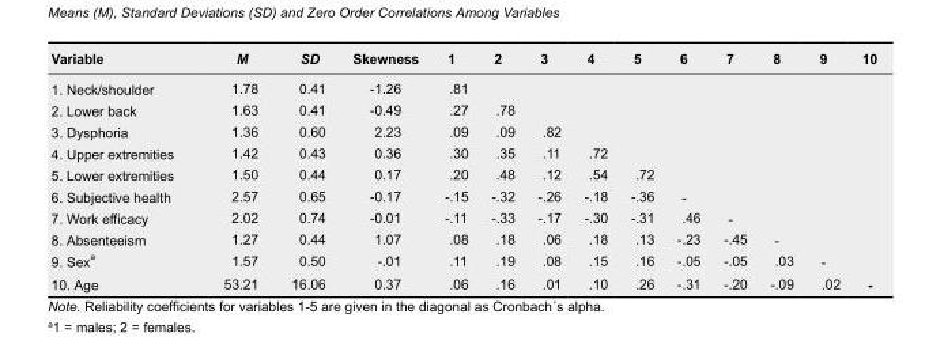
<table><thead><tr><td>Variable</td><td>M</td><td>SD</td><td>Skewness</td><td>1</td><td>2</td><td>3</td><td>4</td><td>5</td><td>6</td><td>7</td><td>8</td><td>9</td><td>10</td></tr></thead><tbody><tr><td>1. Neck/shoulder</td><td>1.78</td><td>0.41</td><td>-1.26</td><td>.81</td><td></td><td></td><td></td><td></td><td></td><td></td><td></td><td></td><td></td></tr><tr><td>2. Lower back</td><td>1.63</td><td>0.41</td><td>-0.49</td><td>.27</td><td>.78</td><td></td><td></td><td></td><td></td><td></td><td></td><td></td><td></td></tr><tr><td>3. Dysphoria</td><td>1.36</td><td>0.60</td><td>2.23</td><td>.09</td><td>.09</td><td>.82</td><td></td><td></td><td></td><td></td><td></td><td></td><td></td></tr><tr><td>4. Upper extremities</td><td>1.42</td><td>0.43</td><td>0.36</td><td>.30</td><td>.35</td><td>.11</td><td>.72</td><td></td><td></td><td></td><td></td><td></td><td></td></tr><tr><td>5. Lower extremities</td><td>1.50</td><td>0.44</td><td>0.17</td><td>.20</td><td>.48</td><td>.12</td><td>.54</td><td>.72</td><td></td><td></td><td></td><td></td><td></td></tr><tr><td>6. Subjective health</td><td>2.57</td><td>0.65</td><td>-0.17</td><td>-.15</td><td>-.32</td><td>-.26</td><td>-.18</td><td>-.36</td><td>-</td><td></td><td></td><td></td><td></td></tr><tr><td>7. Work efficacy</td><td>2.02</td><td>0.74</td><td>-0.01</td><td>-.11</td><td>-.33</td><td>-.17</td><td>-.30</td><td>-.31</td><td>.46</td><td>-</td><td></td><td></td><td></td></tr><tr><td>8. Absenteeism</td><td>1.27</td><td>0.44</td><td>1.07</td><td>.08</td><td>.18</td><td>.06</td><td>.18</td><td>.13</td><td>-.23</td><td>-.45</td><td>-</td><td></td><td></td></tr><tr><td>9. Sex <sup>a</sup></td><td>1.57</td><td>0.50</td><td>-.01</td><td>.11</td><td>.19</td><td>.08</td><td>.15</td><td>.16</td><td>-.05</td><td>-.05</td><td>.03</td><td>-</td><td></td></tr><tr><td>10. Age</td><td>53.21</td><td>16.06</td><td>0.37</td><td>.06</td><td>.16</td><td>.01</td><td>.10</td><td>.26</td><td>-.31</td><td>-.20</td><td>-.09</td><td>.02</td><td>-</td></tr></tbody></table>